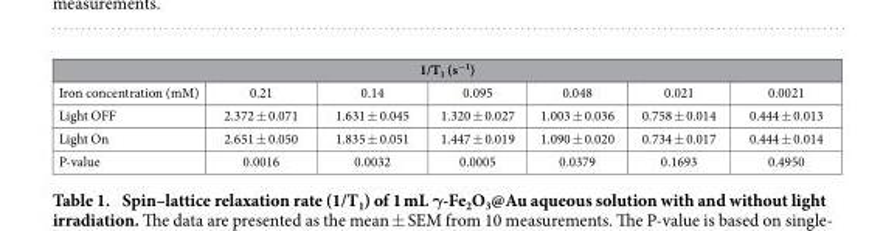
<table><thead><tr><td colspan="7">1/T<sub>1</sub> (s<sup>−1</sup>)</td></tr><tr><td>Iron concentration (mM)</td><td>0.21</td><td>0.14</td><td>0.095</td><td>0.048</td><td>0.021</td><td>0.0021</td></tr></thead><tbody><tr><td>Light OFF</td><td>2.372 ± 0.071</td><td>1.631 ± 0.045</td><td>1.320 ± 0.027</td><td>1.003 ± 0.036</td><td>0.758 ± 0.014</td><td>0.444 ± 0.013</td></tr><tr><td>Light On</td><td>2.651 ± 0.050</td><td>1.835 ± 0.051</td><td>1.447 ± 0.019</td><td>1.090 ± 0.020</td><td>0.734 ± 0.017</td><td>0.444 ± 0.014</td></tr><tr><td>P-value</td><td>0.0016</td><td>0.0032</td><td>0.0005</td><td>0.0379</td><td>0.1693</td><td>0.4950</td></tr></tbody></table>